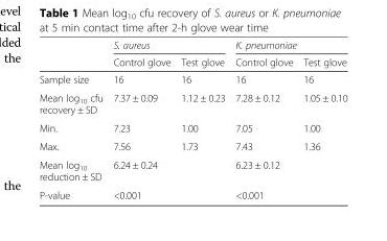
<table><thead><tr><td rowspan="2"></td><td colspan="2">S. aureus</td><td colspan="2">K. pneumoniae</td></tr><tr><td>Control glove</td><td>Test glove</td><td>Control glove</td><td>Test glove</td></tr></thead><tbody><tr><td>Sample size</td><td>16</td><td>16</td><td>16</td><td>16</td></tr><tr><td>Mean log<sub>10</sub> cfu recovery ± SD</td><td>7.37 ± 0.09</td><td>1.12 ± 0.23</td><td>7.28 ± 0.12</td><td>1.05 ± 0.10</td></tr><tr><td>Min.</td><td>7.23</td><td>1.00</td><td>7.05</td><td>1.00</td></tr><tr><td>Max.</td><td>7.56</td><td>1.73</td><td>7.43</td><td>1.36</td></tr><tr><td>Mean log<sub>10</sub> reduction ± SD</td><td colspan="2">6.24 ± 0.24</td><td colspan="2">6.23 ± 0.12</td></tr><tr><td>P-value</td><td colspan="2">&lt;0.001</td><td colspan="2">&lt;0.001</td></tr></tbody></table>